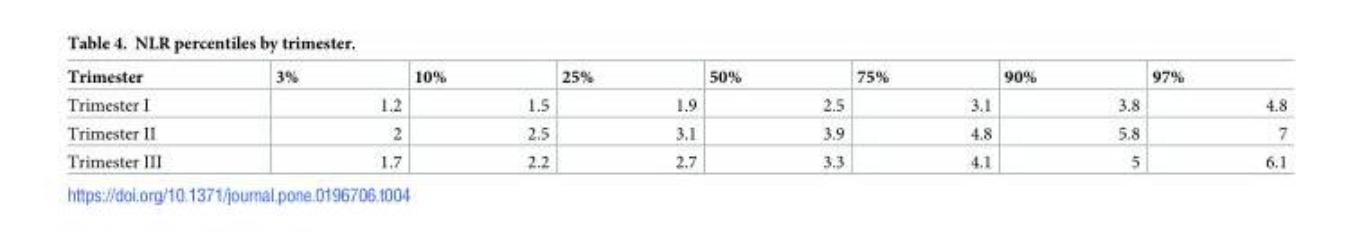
<table><thead><tr><td>Trimester</td><td>3%</td><td>10%</td><td>25%</td><td>50%</td><td>75%</td><td>90%</td><td>97%</td></tr></thead><tbody><tr><td>Trimester I</td><td>1.2</td><td>1.5</td><td>1.9</td><td>2.5</td><td>3.1</td><td>3.8</td><td>4.8</td></tr><tr><td>Trimester II</td><td>2</td><td>2.5</td><td>3.1</td><td>3.9</td><td>4.8</td><td>5.8</td><td>7</td></tr><tr><td>Trimester III</td><td>1.7</td><td>2.2</td><td>2.7</td><td>3.3</td><td>4.1</td><td>5</td><td>6.1</td></tr></tbody></table>